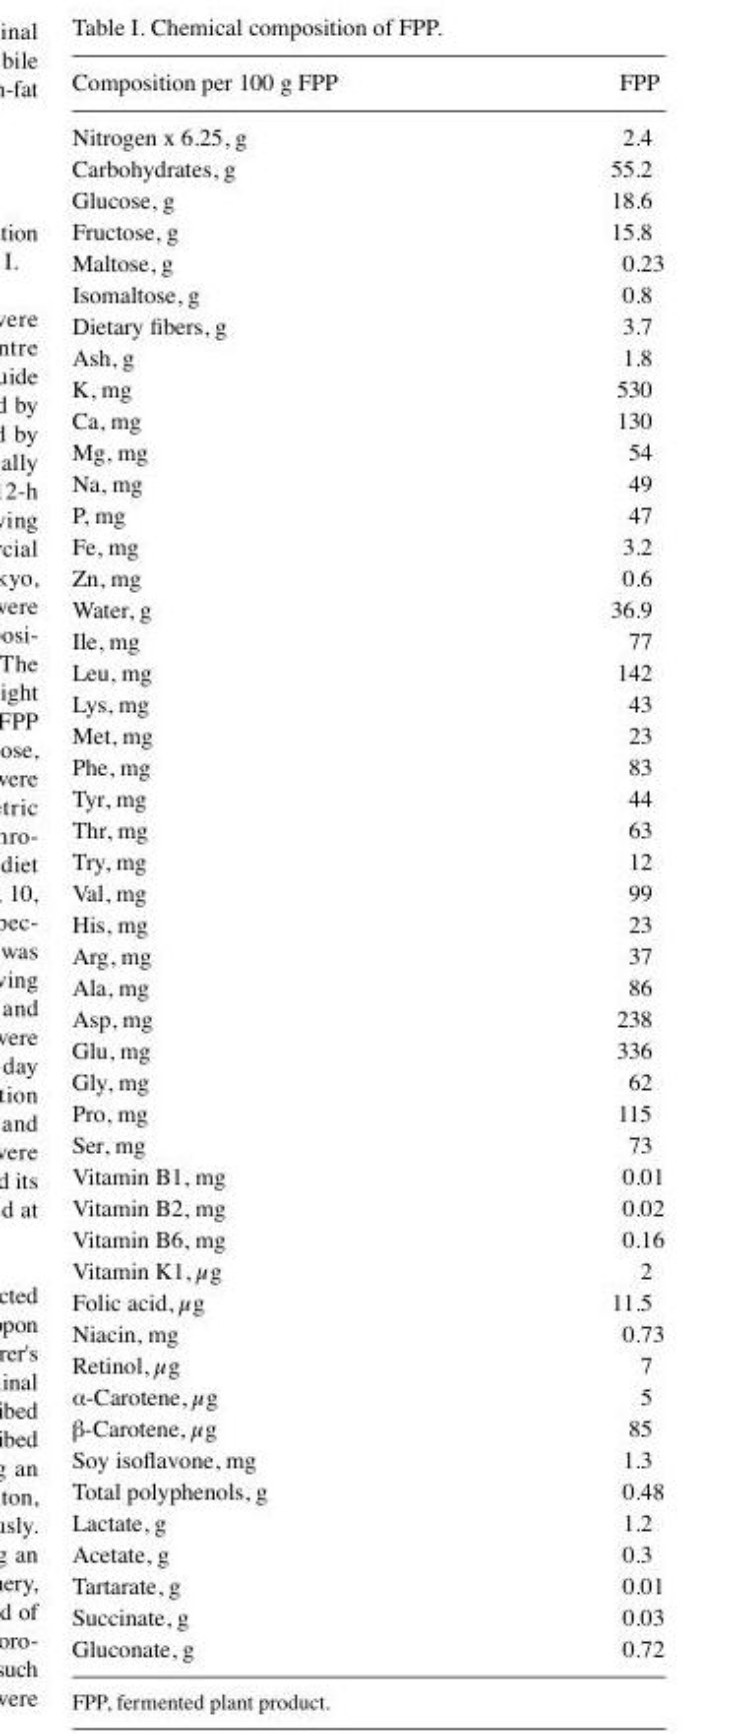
<table><thead><tr><td>Composition per 100 g FPP</td><td>FPP</td></tr></thead><tbody><tr><td>Nitrogen x 6.25, g</td><td>2.4</td></tr><tr><td>Carbohydrates, g</td><td>55.2</td></tr><tr><td>Glucose, g</td><td>18.6</td></tr><tr><td>Fructose, g</td><td>15.8</td></tr><tr><td>Maltose, g</td><td>0.23</td></tr><tr><td>Isomaltose, g</td><td>0.8</td></tr><tr><td>Dietary fibers, g</td><td>3.7</td></tr><tr><td>Ash, g</td><td>1.8</td></tr><tr><td>K, mg</td><td>530</td></tr><tr><td>Ca, mg</td><td>130</td></tr><tr><td>Mg, mg</td><td>54</td></tr><tr><td>Na, mg</td><td>49</td></tr><tr><td>P, mg</td><td>47</td></tr><tr><td>Fe, mg</td><td>3.2</td></tr><tr><td>Zn, mg</td><td>0.6</td></tr><tr><td>Water, g</td><td>36.9</td></tr><tr><td>Ile, mg</td><td>77</td></tr><tr><td>Leu, mg</td><td>142</td></tr><tr><td>Lys, mg</td><td>43</td></tr><tr><td>Met, mg</td><td>23</td></tr><tr><td>Phe, mg</td><td>83</td></tr><tr><td>Tyr, mg</td><td>44</td></tr><tr><td>Thr, mg</td><td>63</td></tr><tr><td>Try, mg</td><td>12</td></tr><tr><td>Val, mg</td><td>99</td></tr><tr><td>His, mg</td><td>23</td></tr><tr><td>Arg, mg</td><td>37</td></tr><tr><td>Ala, mg</td><td>86</td></tr><tr><td>Asp, mg</td><td>238</td></tr><tr><td>Glu, mg</td><td>336</td></tr><tr><td>Gly, mg</td><td>62</td></tr><tr><td>Pro, mg</td><td>115</td></tr><tr><td>Ser, mg</td><td>73</td></tr><tr><td>Vitamin B1, mg</td><td>0.01</td></tr><tr><td>Vitamin B2, mg</td><td>0.02</td></tr><tr><td>Vitamin B6, mg</td><td>0.16</td></tr><tr><td>Vitamin K1, µg</td><td>2</td></tr><tr><td>Folic acid, µg</td><td>11.5</td></tr><tr><td>Niacin, mg</td><td>0.73</td></tr><tr><td>Retinol, µg</td><td>7</td></tr><tr><td>α-Carotene, µg</td><td>5</td></tr><tr><td>β-Carotene, µg</td><td>85</td></tr><tr><td>Soy isoflavone, mg</td><td>1.3</td></tr><tr><td>Total polyphenols, g</td><td>0.48</td></tr><tr><td>Lactate, g</td><td>1.2</td></tr><tr><td>Acetate, g</td><td>0.3</td></tr><tr><td>Tartarate, g</td><td>0.01</td></tr><tr><td>Succinate, g</td><td>0.03</td></tr><tr><td>Gluconate, g</td><td>0.72</td></tr></tbody></table>